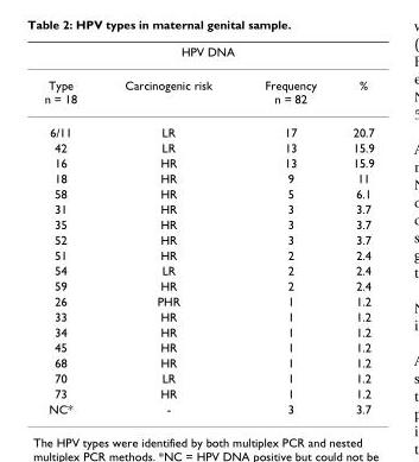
<table><thead><tr><td colspan="4">HPV DNA</td></tr><tr><td>Type n = 18</td><td>Carcinogenic risk</td><td>Frequency n = 82</td><td>%</td></tr></thead><tbody><tr><td>6/11</td><td>LR</td><td>17</td><td>20.7</td></tr><tr><td>42</td><td>LR</td><td>13</td><td>15.9</td></tr><tr><td>16</td><td>HR</td><td>13</td><td>15.9</td></tr><tr><td>18</td><td>HR</td><td>9</td><td>11</td></tr><tr><td>58</td><td>HR</td><td>5</td><td>6.1</td></tr><tr><td>31</td><td>HR</td><td>3</td><td>3.7</td></tr><tr><td>35</td><td>HR</td><td>3</td><td>3.7</td></tr><tr><td>52</td><td>HR</td><td>3</td><td>3.7</td></tr><tr><td>51</td><td>HR</td><td>2</td><td>2.4</td></tr><tr><td>54</td><td>LR</td><td>2</td><td>2.4</td></tr><tr><td>59</td><td>HR</td><td>2</td><td>2.4</td></tr><tr><td>26</td><td>PHR</td><td>1</td><td>1.2</td></tr><tr><td>33</td><td>HR</td><td>1</td><td>1.2</td></tr><tr><td>34</td><td>HR</td><td>1</td><td>1.2</td></tr><tr><td>45</td><td>HR</td><td>1</td><td>1.2</td></tr><tr><td>68</td><td>HR</td><td>1</td><td>1.2</td></tr><tr><td>70</td><td>LR</td><td>1</td><td>1.2</td></tr><tr><td>73</td><td>HR</td><td>1</td><td>1.2</td></tr><tr><td>NC*</td><td>-</td><td>3</td><td>3.7</td></tr></tbody></table>